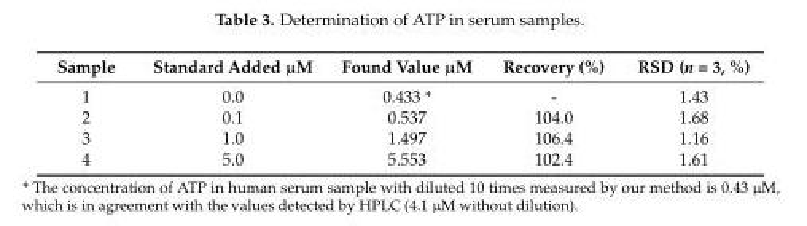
<table><thead><tr><td>Sample</td><td>Standard Added µM</td><td>Found Value µM</td><td>Recovery (%)</td><td>RSD (n = 3, %)</td></tr></thead><tbody><tr><td>1</td><td>0.0</td><td>0.433 *</td><td>-</td><td>1.43</td></tr><tr><td>2</td><td>0.1</td><td>0.537</td><td>104.0</td><td>1.68</td></tr><tr><td>3</td><td>1.0</td><td>1.497</td><td>106.4</td><td>1.16</td></tr><tr><td>4</td><td>5.0</td><td>5.553</td><td>102.4</td><td>1.61</td></tr></tbody></table>